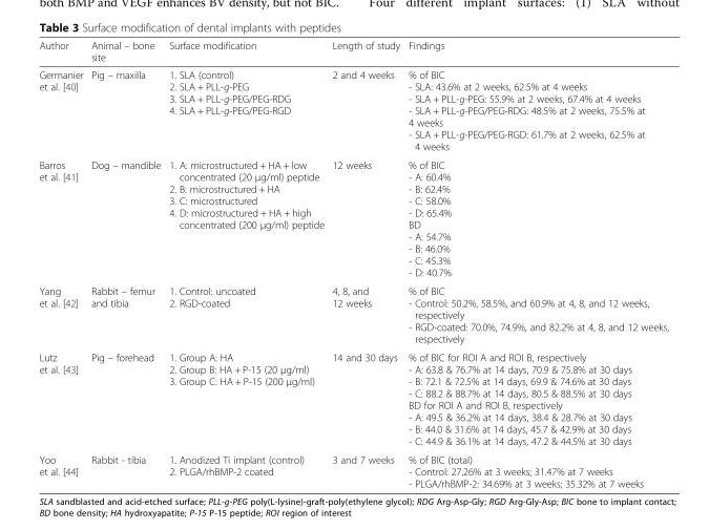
<table><thead><tr><td>Author</td><td>Animal – bone site</td><td>Surface modification</td><td>Length of study</td><td>Findings</td></tr></thead><tbody><tr><td>Germanier et al. [40]</td><td>Pig – maxilla</td><td>1. SLA (control) 2. SLA + PLL-g-PEG 3. SLA + PLL-g-PEG/PEG-RDG 4. SLA + PLL-g-PEG/PEG-RGD</td><td>2 and 4 weeks</td><td>% of BIC - SLA: 43.6% at 2 weeks, 62.5% at 4 weeks - SLA + PLL-g-PEG: 55.9% at 2 weeks, 67.4% at 4 weeks - SLA + PLL-g-PEG/PEG-RDG: 48.5% at 2 weeks, 75.5% at 4 weeks - SLA + PLL-g-PEG/PEG-RGD: 61.7% at 2 weeks, 62.5% at 4 weeks</td></tr><tr><td>Barros et al. [41]</td><td>Dog – mandible</td><td>1. A: microstructured + HA + low concentrated (20 μg/ml) peptide 2. B: microstructured + HA 3. C: microstructured 4. D: microstructured + HA + high concentrated (200 μg/ml) peptide</td><td>12 weeks</td><td>% of BIC - A: 60.4% - B: 62.4% - C: 58.0% - D: 65.4% BD - A: 54.7% - B: 46.0% - C: 45.3% - D: 40.7%</td></tr><tr><td>Yang et al. [42]</td><td>Rabbit – femur and tibia</td><td>1. Control: uncoated 2. RGD-coated</td><td>4, 8, and 12 weeks</td><td>% of BIC - Control: 50.2%, 58.5%, and 60.9% at 4, 8, and 12 weeks, respectively - RGD-coated: 70.0%, 74.9%, and 82.2% at 4, 8, and 12 weeks, respectively</td></tr><tr><td>Lutz et al. [43]</td><td>Pig – forehead</td><td>1. Group A: HA 2. Group B: HA + P-15 (20 μg/ml) 3. Group C: HA + P-15 (200 μg/ml)</td><td>14 and 30 days</td><td>% of BIC for ROI A and ROI B, respectively - A: 63.8 &amp; 76.7% at 14 days, 70.9 &amp; 75.8% at 30 days - B: 72.1 &amp; 72.5% at 14 days, 69.9 &amp; 74.6% at 30 days - C: 88.2 &amp; 88.7% at 14 days, 80.5 &amp; 88.5% at 30 days BD for ROI A and ROI B, respectively - A: 49.5 &amp; 36.2% at 14 days, 38.4 &amp; 28.7% at 30 days - B: 44.0 &amp; 31.6% at 14 days, 45.7 &amp; 42.9% at 30 days - C: 44.9 &amp; 36.1% at 14 days, 47.2 &amp; 44.5% at 30 days</td></tr><tr><td>Yoo et al. [44]</td><td>Rabbit - tibia</td><td>1. Anodized Ti implant (control) 2. PLGA/rhBMP-2 coated</td><td>3 and 7 weeks</td><td>% of BIC (total) - Control: 27.26% at 3 weeks; 31.47% at 7 weeks - PLGA/rhBMP-2: 34.69% at 3 weeks; 35.32% at 7 weeks</td></tr></tbody></table>